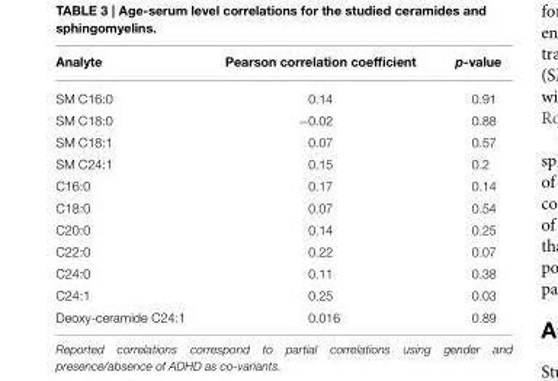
<table><thead><tr><td>Analyte</td><td>Pearson correlation coefficient</td><td>p-value</td></tr></thead><tbody><tr><td>SM C16:0</td><td>0.14</td><td>0.91</td></tr><tr><td>SM C18:0</td><td>−0.02</td><td>0.88</td></tr><tr><td>SM C18:1</td><td>0.07</td><td>0.57</td></tr><tr><td>SM C24:1</td><td>0.15</td><td>0.2</td></tr><tr><td>C16:0</td><td>0.17</td><td>0.14</td></tr><tr><td>C18:0</td><td>0.07</td><td>0.54</td></tr><tr><td>C20:0</td><td>0.14</td><td>0.25</td></tr><tr><td>C22:0</td><td>0.22</td><td>0.07</td></tr><tr><td>C24:0</td><td>0.11</td><td>0.38</td></tr><tr><td>C24:1</td><td>0.25</td><td>0.03</td></tr><tr><td>Deoxy-ceramide C24:1</td><td>0.016</td><td>0.89</td></tr></tbody></table>